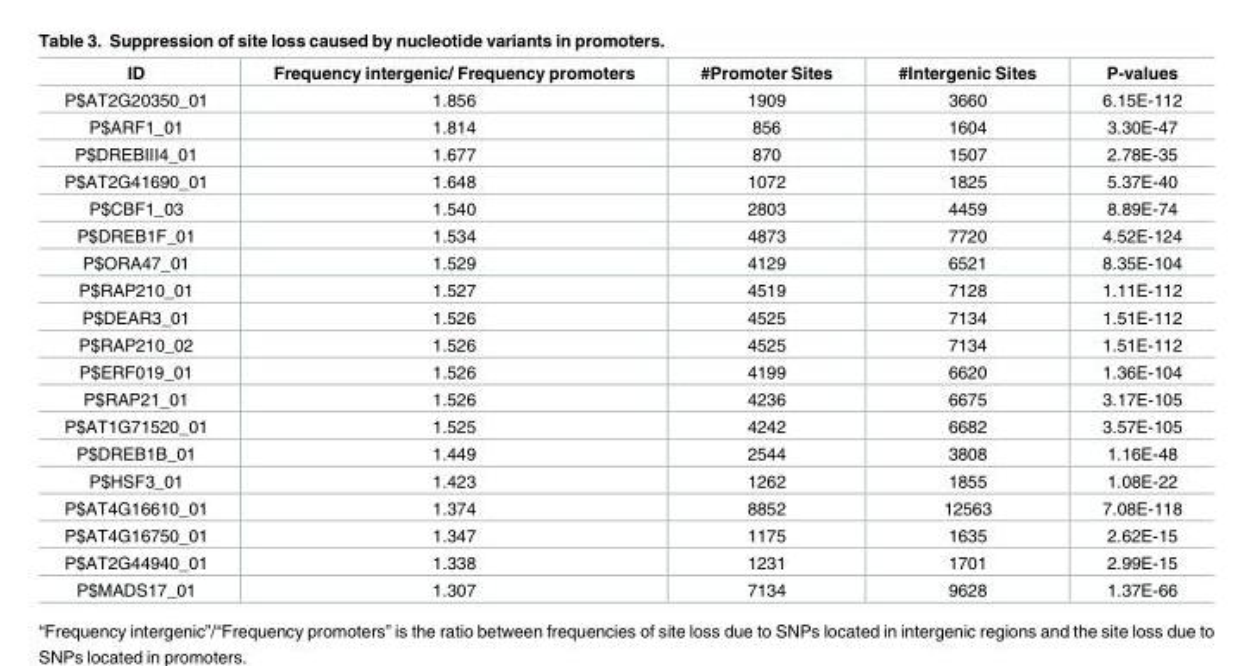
<table><thead><tr><td>ID</td><td>Frequency intergenic/ Frequency promoters</td><td>#Promoter Sites</td><td>#Intergenic Sites</td><td>P-values</td></tr></thead><tbody><tr><td>P$AT2G20350_01</td><td>1.856</td><td>1909</td><td>3660</td><td>6.15E-112</td></tr><tr><td>P$ARF1_01</td><td>1.814</td><td>856</td><td>1604</td><td>3.30E-47</td></tr><tr><td>P$DREBIII4_01</td><td>1.677</td><td>870</td><td>1507</td><td>2.78E-35</td></tr><tr><td>P$AT2G41690_01</td><td>1.648</td><td>1072</td><td>1825</td><td>5.37E-40</td></tr><tr><td>P$CBF1_03</td><td>1.540</td><td>2803</td><td>4459</td><td>8.89E-74</td></tr><tr><td>P$DREB1F_01</td><td>1.534</td><td>4873</td><td>7720</td><td>4.52E-124</td></tr><tr><td>P$ORA47_01</td><td>1.529</td><td>4129</td><td>6521</td><td>8.35E-104</td></tr><tr><td>P$RAP210_01</td><td>1.527</td><td>4519</td><td>7128</td><td>1.11E-112</td></tr><tr><td>P$DEAR3_01</td><td>1.526</td><td>4525</td><td>7134</td><td>1.51E-112</td></tr><tr><td>P$RAP210_02</td><td>1.526</td><td>4525</td><td>7134</td><td>1.51E-112</td></tr><tr><td>P$ERF019_01</td><td>1.526</td><td>4199</td><td>6620</td><td>1.36E-104</td></tr><tr><td>P$RAP21_01</td><td>1.526</td><td>4236</td><td>6675</td><td>3.17E-105</td></tr><tr><td>P$AT1G71520_01</td><td>1.525</td><td>4242</td><td>6682</td><td>3.57E-105</td></tr><tr><td>P$DREB1B_01</td><td>1.449</td><td>2544</td><td>3808</td><td>1.16E-48</td></tr><tr><td>P$HSF3_01</td><td>1.423</td><td>1262</td><td>1855</td><td>1.08E-22</td></tr><tr><td>P$AT4G16610_01</td><td>1.374</td><td>8852</td><td>12563</td><td>7.08E-118</td></tr><tr><td>P$AT4G16750_01</td><td>1.347</td><td>1175</td><td>1635</td><td>2.62E-15</td></tr><tr><td>P$AT2G44940_01</td><td>1.338</td><td>1231</td><td>1701</td><td>2.99E-15</td></tr><tr><td>P$MADS17_01</td><td>1.307</td><td>7134</td><td>9628</td><td>1.37E-66</td></tr></tbody></table>